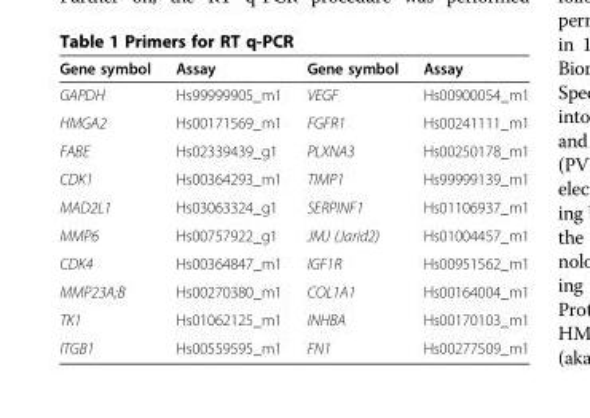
<table><thead><tr><td>Gene symbol</td><td>Assay</td><td>Gene symbol</td><td>Assay</td></tr></thead><tbody><tr><td>GAPDH</td><td>Hs99999905_m1</td><td>VEGF</td><td>Hs00900054_m1</td></tr><tr><td>HMGA2</td><td>Hs00171569_m1</td><td>FGFR1</td><td>Hs00241111_m1</td></tr><tr><td>FABE</td><td>Hs02339439_g1</td><td>PLXNA3</td><td>Hs00250178_m1</td></tr><tr><td>CDK1</td><td>Hs00364293_m1</td><td>TIMP1</td><td>Hs99999139_m1</td></tr><tr><td>MAD2L1</td><td>Hs03063324_g1</td><td>SERPINF1</td><td>Hs01106937_m1</td></tr><tr><td>MMP6</td><td>Hs00757922_g1</td><td>JMJ (Jarid2)</td><td>Hs01004457_m1</td></tr><tr><td>CDK4</td><td>Hs00364847_m1</td><td>IGF1R</td><td>Hs00951562_m1</td></tr><tr><td>MMP23A;B</td><td>Hs00270380_m1</td><td>COL1A1</td><td>Hs00164004_m1</td></tr><tr><td>TK1</td><td>Hs01062125_m1</td><td>INHBA</td><td>Hs00170103_m1</td></tr><tr><td>ITGB1</td><td>Hs00559595_m1</td><td>FN1</td><td>Hs00277509_m1</td></tr></tbody></table>